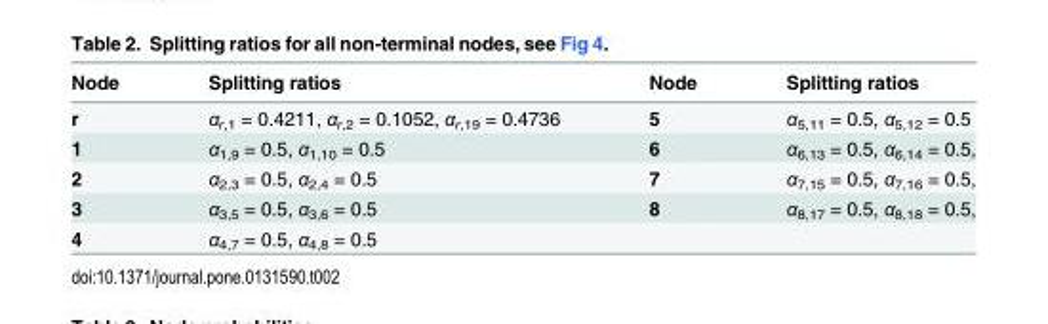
<table><thead><tr><td>Node</td><td>Splitting ratios</td><td>Node</td><td>Splitting ratios</td></tr></thead><tbody><tr><td>r</td><td>α<sub>r,1</sub> = 0.4211, α<sub>r,2</sub> = 0.1052, α<sub>r,19</sub> = 0.4736</td><td>5</td><td>α<sub>5,11</sub> = 0.5, α<sub>5,12</sub> = 0.5</td></tr><tr><td>1</td><td>α<sub>1,9</sub> = 0.5, α<sub>1,10</sub> = 0.5</td><td>6</td><td>α<sub>6,13</sub> = 0.5, α<sub>6,14</sub> = 0.5,</td></tr><tr><td>2</td><td>α<sub>2,3</sub> = 0.5, α<sub>2,4</sub> = 0.5</td><td>7</td><td>α<sub>7,15</sub> = 0.5, α<sub>7,16</sub> = 0.5,</td></tr><tr><td>3</td><td>α<sub>3,5</sub> = 0.5, α<sub>3,6</sub> = 0.5</td><td>8</td><td>α<sub>8,17</sub> = 0.5, α<sub>8,18</sub> = 0.5,</td></tr><tr><td>4</td><td>α<sub>4,7</sub> = 0.5, α<sub>4,8</sub> = 0.5</td><td></td><td></td></tr></tbody></table>